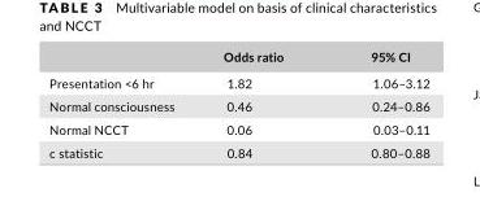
<table><thead><tr><td></td><td>Odds ratio</td><td>95% CI</td></tr></thead><tbody><tr><td>Presentation &lt;6 hr</td><td>1.82</td><td>1.06–3.12</td></tr><tr><td>Normal consciousness</td><td>0.46</td><td>0.24–0.86</td></tr><tr><td>Normal NCCT</td><td>0.06</td><td>0.03–0.11</td></tr><tr><td>c statistic</td><td>0.84</td><td>0.80–0.88</td></tr></tbody></table>